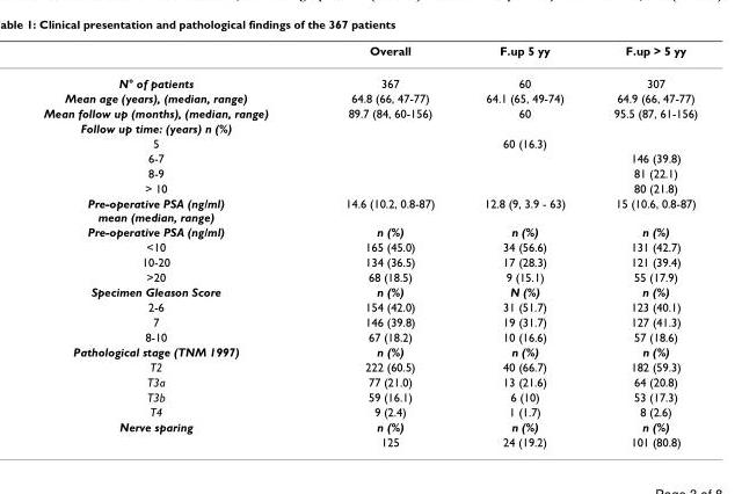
<table><thead><tr><td></td><td>Overall</td><td>F.up 5 yy</td><td>F.up &gt; 5 yy</td></tr></thead><tbody><tr><td>N° of patients</td><td>367</td><td>60</td><td>307</td></tr><tr><td>Mean age (years), (median, range)</td><td>64.8 (66, 47-77)</td><td>64.1 (65, 49-74)</td><td>64.9 (66, 47-77)</td></tr><tr><td>Mean follow up (months), (median, range)</td><td>89.7 (84, 60-156)</td><td>60</td><td>95.5 (87, 61-156)</td></tr><tr><td colspan="4">Follow up time: (years) n (%)</td></tr><tr><td>5</td><td></td><td>60 (16.3)</td><td></td></tr><tr><td>6-7</td><td></td><td></td><td>146 (39.8)</td></tr><tr><td>8-9</td><td></td><td></td><td>81 (22.1)</td></tr><tr><td>&gt; 10</td><td></td><td></td><td>80 (21.8)</td></tr><tr><td>Pre-operative PSA (ng/ml) mean (median, range)</td><td>14.6 (10.2, 0.8-87)</td><td>12.8 (9, 3.9 - 63)</td><td>15 (10.6, 0.8-87)</td></tr><tr><td>Pre-operative PSA (ng/ml)</td><td>n (%)</td><td>n (%)</td><td>n (%)</td></tr><tr><td>&lt;10</td><td>165 (45.0)</td><td>34 (56.6)</td><td>131 (42.7)</td></tr><tr><td>10-20</td><td>134 (36.5)</td><td>17 (28.3)</td><td>121 (39.4)</td></tr><tr><td>&gt;20</td><td>68 (18.5)</td><td>9 (15.1)</td><td>55 (17.9)</td></tr><tr><td>Specimen Gleason Score</td><td>n (%)</td><td>N (%)</td><td>n (%)</td></tr><tr><td>2-6</td><td>154 (42.0)</td><td>31 (51.7)</td><td>123 (40.1)</td></tr><tr><td>7</td><td>146 (39.8)</td><td>19 (31.7)</td><td>127 (41.3)</td></tr><tr><td>8-10</td><td>67 (18.2)</td><td>10 (16.6)</td><td>57 (18.6)</td></tr><tr><td>Pathological stage (TNM 1997)</td><td>n (%)</td><td>n (%)</td><td>n (%)</td></tr><tr><td>T2</td><td>222 (60.5)</td><td>40 (66.7)</td><td>182 (59.3)</td></tr><tr><td>T3a</td><td>77 (21.0)</td><td>13 (21.6)</td><td>64 (20.8)</td></tr><tr><td>T3b</td><td>59 (16.1)</td><td>6 (10)</td><td>53 (17.3)</td></tr><tr><td>T4</td><td>9 (2.4)</td><td>1 (1.7)</td><td>8 (2.6)</td></tr><tr><td rowspan="2">Nerve sparing</td><td>n (%)</td><td>n (%)</td><td>n (%)</td></tr><tr><td>125</td><td>24 (19.2)</td><td>101 (80.8)</td></tr></tbody></table>